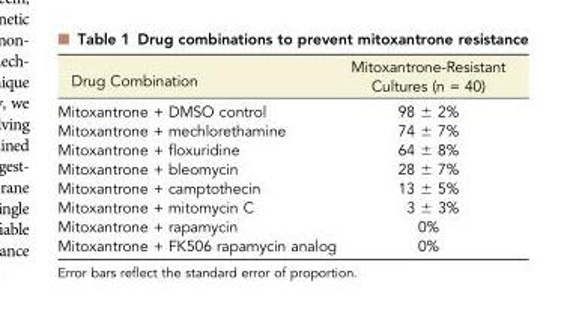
<table><thead><tr><td>Drug Combination</td><td>Mitoxantrone-Resistant Cultures (n = 40)</td></tr></thead><tbody><tr><td>Mitoxantrone + DMSO control</td><td>98 ± 2%</td></tr><tr><td>Mitoxantrone + mechlorethamine</td><td>74 ± 7%</td></tr><tr><td>Mitoxantrone + floxuridine</td><td>64 ± 8%</td></tr><tr><td>Mitoxantrone + bleomycin</td><td>28 ± 7%</td></tr><tr><td>Mitoxantrone + camptothecin</td><td>13 ± 5%</td></tr><tr><td>Mitoxantrone + mitomycin C</td><td>3 ± 3%</td></tr><tr><td>Mitoxantrone + rapamycin</td><td>0%</td></tr><tr><td>Mitoxantrone + FK506 rapamycin analog</td><td>0%</td></tr></tbody></table>